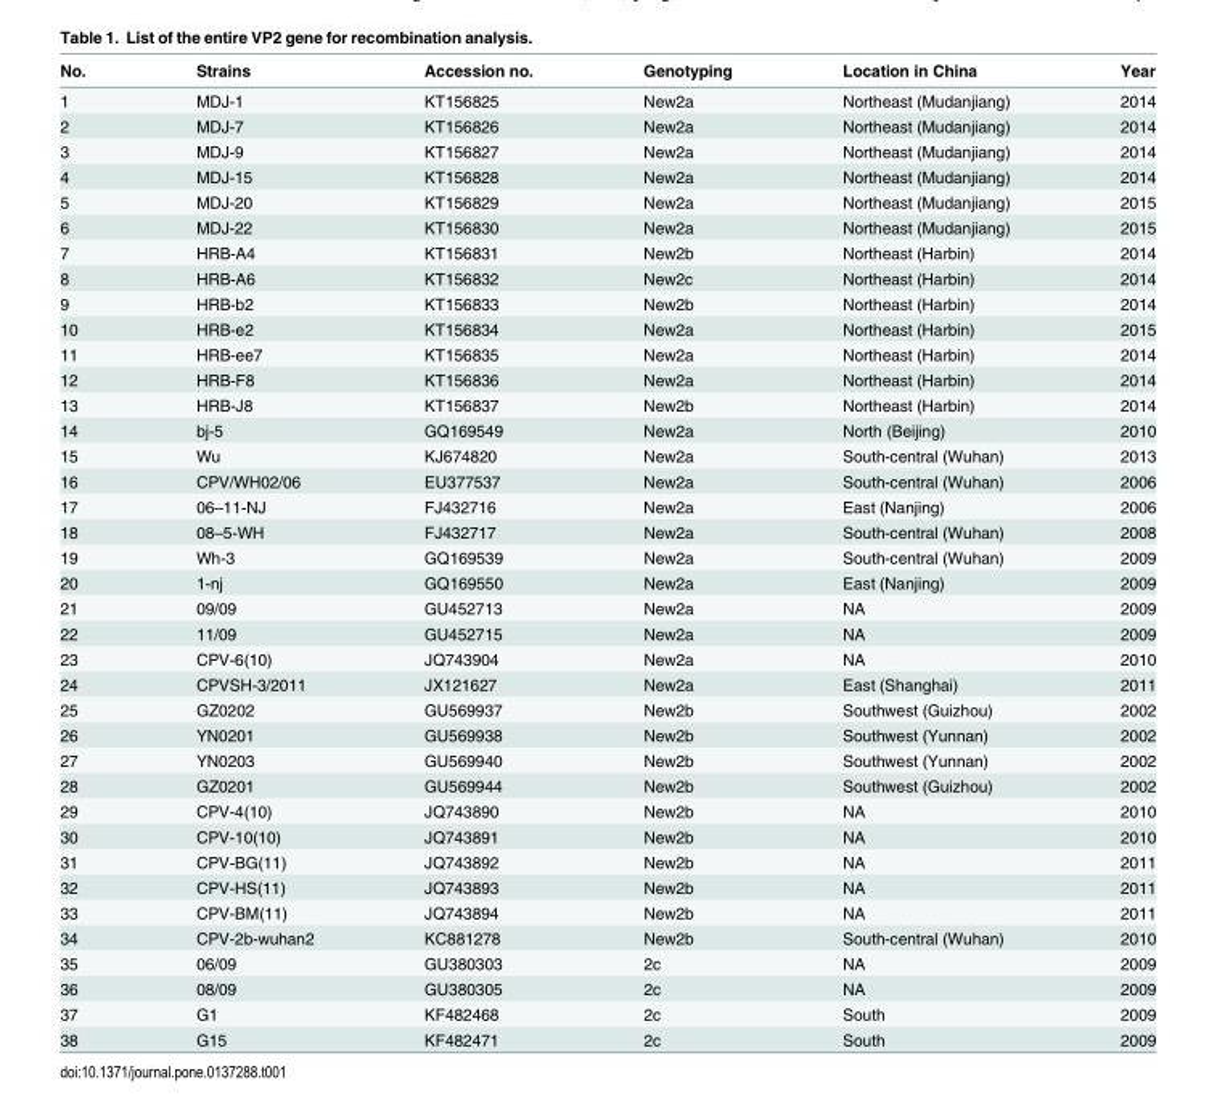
<table><thead><tr><td>No.</td><td>Strains</td><td>Accession no.</td><td>Genotyping</td><td>Location in China</td><td>Year</td></tr></thead><tbody><tr><td>1</td><td>MDJ-1</td><td>KT156825</td><td>New2a</td><td>Northeast (Mudanjiang)</td><td>2014</td></tr><tr><td>2</td><td>MDJ-7</td><td>KT156826</td><td>New2a</td><td>Northeast (Mudanjiang)</td><td>2014</td></tr><tr><td>3</td><td>MDJ-9</td><td>KT156827</td><td>New2a</td><td>Northeast (Mudanjiang)</td><td>2014</td></tr><tr><td>4</td><td>MDJ-15</td><td>KT156828</td><td>New2a</td><td>Northeast (Mudanjiang)</td><td>2014</td></tr><tr><td>5</td><td>MDJ-20</td><td>KT156829</td><td>New2a</td><td>Northeast (Mudanjiang)</td><td>2015</td></tr><tr><td>6</td><td>MDJ-22</td><td>KT156830</td><td>New2a</td><td>Northeast (Mudanjiang)</td><td>2015</td></tr><tr><td>7</td><td>HRB-A4</td><td>KT156831</td><td>New2b</td><td>Northeast (Harbin)</td><td>2014</td></tr><tr><td>8</td><td>HRB-A6</td><td>KT156832</td><td>New2c</td><td>Northeast (Harbin)</td><td>2014</td></tr><tr><td>9</td><td>HRB-b2</td><td>KT156833</td><td>New2b</td><td>Northeast (Harbin)</td><td>2014</td></tr><tr><td>10</td><td>HRB-e2</td><td>KT156834</td><td>New2a</td><td>Northeast (Harbin)</td><td>2015</td></tr><tr><td>11</td><td>HRB-ee7</td><td>KT156835</td><td>New2a</td><td>Northeast (Harbin)</td><td>2014</td></tr><tr><td>12</td><td>HRB-F8</td><td>KT156836</td><td>New2a</td><td>Northeast (Harbin)</td><td>2014</td></tr><tr><td>13</td><td>HRB-J8</td><td>KT156837</td><td>New2b</td><td>Northeast (Harbin)</td><td>2014</td></tr><tr><td>14</td><td>bj-5</td><td>GQ169549</td><td>New2a</td><td>North (Beijing)</td><td>2010</td></tr><tr><td>15</td><td>Wu</td><td>KJ674820</td><td>New2a</td><td>South-central (Wuhan)</td><td>2013</td></tr><tr><td>16</td><td>CPV/WH02/06</td><td>EU377537</td><td>New2a</td><td>South-central (Wuhan)</td><td>2006</td></tr><tr><td>17</td><td>06–11-NJ</td><td>FJ432716</td><td>New2a</td><td>East (Nanjing)</td><td>2006</td></tr><tr><td>18</td><td>08–5-WH</td><td>FJ432717</td><td>New2a</td><td>South-central (Wuhan)</td><td>2008</td></tr><tr><td>19</td><td>Wh-3</td><td>GQ169539</td><td>New2a</td><td>South-central (Wuhan)</td><td>2009</td></tr><tr><td>20</td><td>1-nj</td><td>GQ169550</td><td>New2a</td><td>East (Nanjing)</td><td>2009</td></tr><tr><td>21</td><td>09/09</td><td>GU452713</td><td>New2a</td><td>NA</td><td>2009</td></tr><tr><td>22</td><td>11/09</td><td>GU452715</td><td>New2a</td><td>NA</td><td>2009</td></tr><tr><td>23</td><td>CPV-6(10)</td><td>JQ743904</td><td>New2a</td><td>NA</td><td>2010</td></tr><tr><td>24</td><td>CPVSH-3/2011</td><td>JX121627</td><td>New2a</td><td>East (Shanghai)</td><td>2011</td></tr><tr><td>25</td><td>GZ0202</td><td>GU569937</td><td>New2b</td><td>Southwest (Guizhou)</td><td>2002</td></tr><tr><td>26</td><td>YN0201</td><td>GU569938</td><td>New2b</td><td>Southwest (Yunnan)</td><td>2002</td></tr><tr><td>27</td><td>YN0203</td><td>GU569940</td><td>New2b</td><td>Southwest (Yunnan)</td><td>2002</td></tr><tr><td>28</td><td>GZ0201</td><td>GU569944</td><td>New2b</td><td>Southwest (Guizhou)</td><td>2002</td></tr><tr><td>29</td><td>CPV-4(10)</td><td>JQ743890</td><td>New2b</td><td>NA</td><td>2010</td></tr><tr><td>30</td><td>CPV-10(10)</td><td>JQ743891</td><td>New2b</td><td>NA</td><td>2010</td></tr><tr><td>31</td><td>CPV-BG(11)</td><td>JQ743892</td><td>New2b</td><td>NA</td><td>2011</td></tr><tr><td>32</td><td>CPV-HS(11)</td><td>JQ743893</td><td>New2b</td><td>NA</td><td>2011</td></tr><tr><td>33</td><td>CPV-BM(11)</td><td>JQ743894</td><td>New2b</td><td>NA</td><td>2011</td></tr><tr><td>34</td><td>CPV-2b-wuhan2</td><td>KC881278</td><td>New2b</td><td>South-central (Wuhan)</td><td>2010</td></tr><tr><td>35</td><td>06/09</td><td>GU380303</td><td>2c</td><td>NA</td><td>2009</td></tr><tr><td>36</td><td>08/09</td><td>GU380305</td><td>2c</td><td>NA</td><td>2009</td></tr><tr><td>37</td><td>G1</td><td>KF482468</td><td>2c</td><td>South</td><td>2009</td></tr><tr><td>38</td><td>G15</td><td>KF482471</td><td>2c</td><td>South</td><td>2009</td></tr></tbody></table>